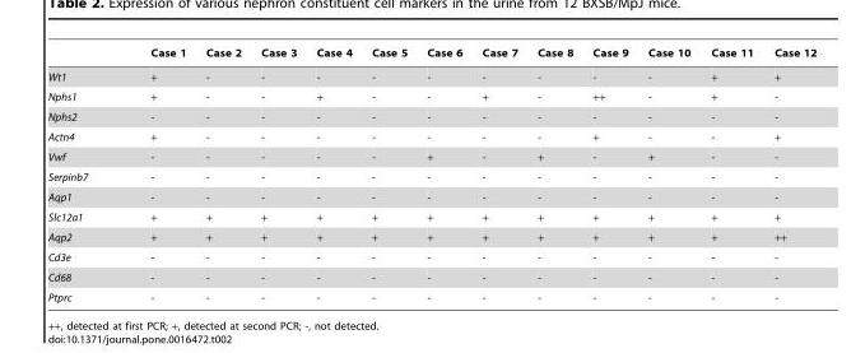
<table><thead><tr><td></td><td>Case 1</td><td>Case 2</td><td>Case 3</td><td>Case 4</td><td>Case 5</td><td>Case 6</td><td>Case 7</td><td>Case 8</td><td>Case 9</td><td>Case 10</td><td>Case 11</td><td>Case 12</td></tr></thead><tbody><tr><td>Wt1</td><td>+</td><td>-</td><td>-</td><td>-</td><td>-</td><td>-</td><td>-</td><td>-</td><td>-</td><td>-</td><td>+</td><td>+</td></tr><tr><td>Nphs1</td><td>+</td><td>-</td><td>-</td><td>+</td><td>-</td><td>-</td><td>+</td><td>-</td><td>++</td><td>-</td><td>+</td><td>-</td></tr><tr><td>Nphs2</td><td>-</td><td>-</td><td>-</td><td>-</td><td>-</td><td>-</td><td>-</td><td>-</td><td>-</td><td>-</td><td>-</td><td>-</td></tr><tr><td>Actn4</td><td>+</td><td>-</td><td>-</td><td>-</td><td>-</td><td>-</td><td>-</td><td>-</td><td>+</td><td>-</td><td>-</td><td>+</td></tr><tr><td>Vwf</td><td>-</td><td>-</td><td>-</td><td>-</td><td>-</td><td>+</td><td>-</td><td>+</td><td>-</td><td>+</td><td>-</td><td>-</td></tr><tr><td>Serpinb7</td><td>-</td><td>-</td><td>-</td><td>-</td><td>-</td><td>-</td><td>-</td><td>-</td><td>-</td><td>-</td><td>-</td><td>-</td></tr><tr><td>Aqp1</td><td>-</td><td>-</td><td>-</td><td>-</td><td>-</td><td>-</td><td>-</td><td>-</td><td>-</td><td>-</td><td>-</td><td>-</td></tr><tr><td>Slc12a1</td><td>+</td><td>+</td><td>+</td><td>+</td><td>+</td><td>+</td><td>+</td><td>+</td><td>+</td><td>+</td><td>+</td><td>+</td></tr><tr><td>Aqp2</td><td>+</td><td>+</td><td>+</td><td>+</td><td>+</td><td>+</td><td>+</td><td>+</td><td>+</td><td>+</td><td>+</td><td>++</td></tr><tr><td>Cd3e</td><td>-</td><td>-</td><td>-</td><td>-</td><td>-</td><td>-</td><td>-</td><td>-</td><td>-</td><td>-</td><td>-</td><td>-</td></tr><tr><td>Cd68</td><td>-</td><td>-</td><td>-</td><td>-</td><td>-</td><td>-</td><td>-</td><td>-</td><td>-</td><td>-</td><td>-</td><td>-</td></tr><tr><td>Ptprc</td><td>-</td><td>-</td><td>-</td><td>-</td><td>-</td><td>-</td><td>-</td><td>-</td><td>-</td><td>-</td><td>-</td><td>-</td></tr></tbody></table>